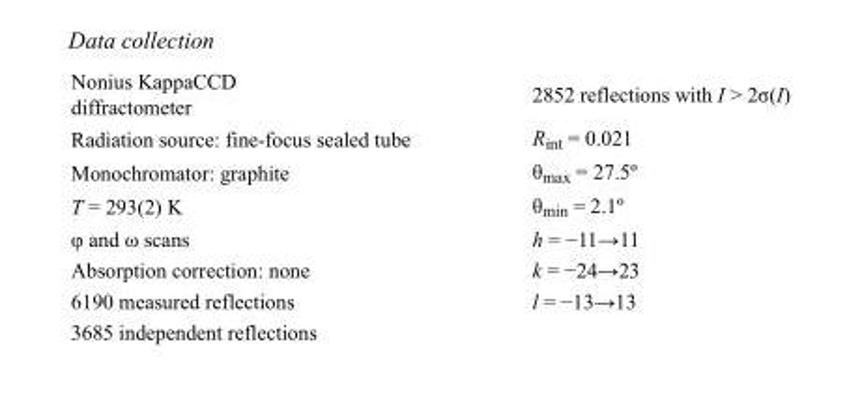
<table><tbody><tr><td>Nonius KappaCCD diffractometer</td><td>2852 reflections with I &gt; 2σ(I)</td></tr><tr><td>Radiation source: fine-focus sealed tube</td><td>R<sub>int</sub> = 0.021</td></tr><tr><td>Monochromator: graphite</td><td>θ<sub>max</sub> = 27.5º</td></tr><tr><td>T = 293(2) K</td><td>θ<sub>min</sub> = 2.1º</td></tr><tr><td>φ and ω scans</td><td>h = −11→11</td></tr><tr><td>Absorption correction: none</td><td>k = −24→23</td></tr><tr><td>6190 measured reflections</td><td>l = −13→13</td></tr><tr><td>3685 independent reflections</td><td></td></tr></tbody></table>